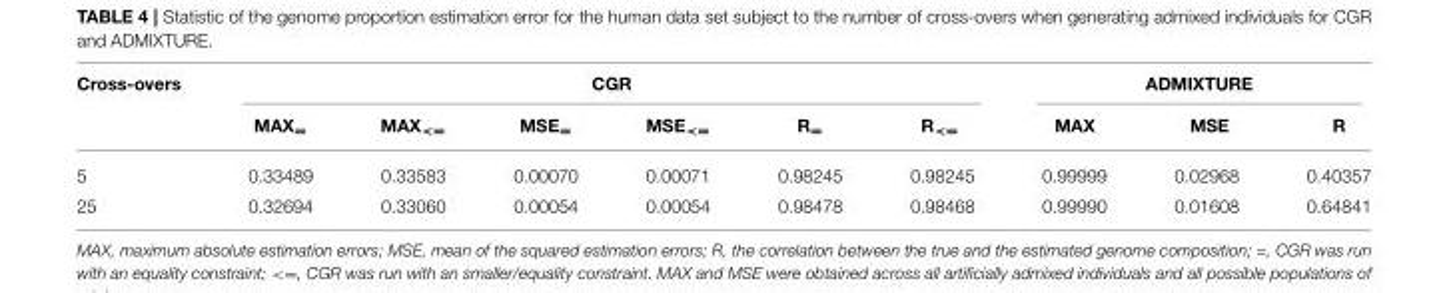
<table><thead><tr><td rowspan="2">Cross-overs</td><td colspan="6">CGR</td><td colspan="3">ADMIXTURE</td></tr><tr><td>MAX<sub>=</sub></td><td>MAX<sub>&lt;=</sub></td><td>MSE<sub>=</sub></td><td>MSE<sub>&lt;=</sub></td><td>R<sub>=</sub></td><td>R<sub>&lt;=</sub></td><td>MAX</td><td>MSE</td><td>R</td></tr></thead><tbody><tr><td>5</td><td>0.33489</td><td>0.33583</td><td>0.00070</td><td>0.00071</td><td>0.98245</td><td>0.98245</td><td>0.99999</td><td>0.02968</td><td>0.40357</td></tr><tr><td>25</td><td>0.32694</td><td>0.33060</td><td>0.00054</td><td>0.00054</td><td>0.98478</td><td>0.98468</td><td>0.99990</td><td>0.01608</td><td>0.64841</td></tr></tbody></table>